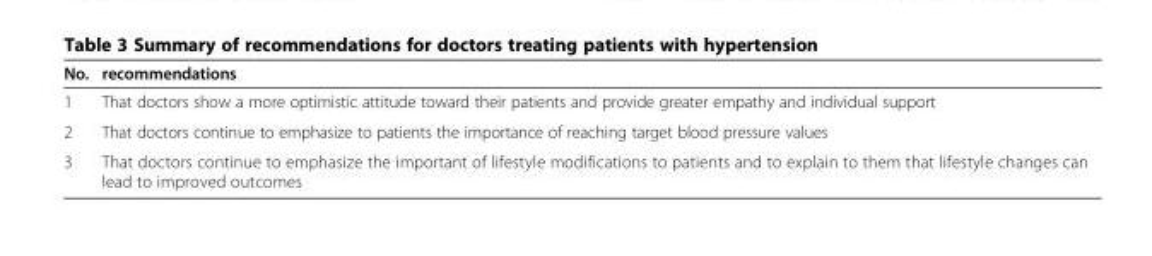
<table><thead><tr><td>No.</td><td>recommendations</td></tr></thead><tbody><tr><td>1</td><td>That doctors show a more optimistic attitude toward their patients and provide greater empathy and individual support</td></tr><tr><td>2</td><td>That doctors continue to emphasize to patients the importance of reaching target blood pressure values</td></tr><tr><td>3</td><td>That doctors continue to emphasize the important of lifestyle modifications to patients and to explain to them that lifestyle changes can lead to improved outcomes</td></tr></tbody></table>